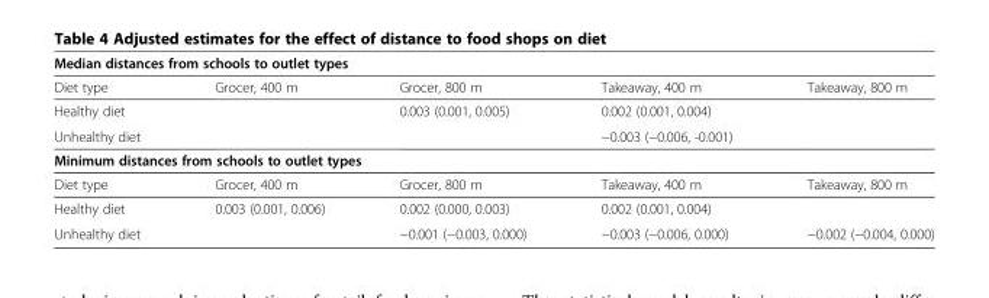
<table><tbody><tr><td colspan="5">Median distances from schools to outlet types</td></tr><tr><td>Diet type</td><td>Grocer, 400 m</td><td>Grocer, 800 m</td><td>Takeaway, 400 m</td><td>Takeaway, 800 m</td></tr><tr><td>Healthy diet</td><td></td><td>0.003 (0.001, 0.005)</td><td>0.002 (0.001, 0.004)</td><td></td></tr><tr><td>Unhealthy diet</td><td></td><td></td><td>−0.003 (−0.006, -0.001)</td><td></td></tr><tr><td colspan="5">Minimum distances from schools to outlet types</td></tr><tr><td>Diet type</td><td>Grocer, 400 m</td><td>Grocer, 800 m</td><td>Takeaway, 400 m</td><td>Takeaway, 800 m</td></tr><tr><td>Healthy diet</td><td>0.003 (0.001, 0.006)</td><td>0.002 (0.000, 0.003)</td><td>0.002 (0.001, 0.004)</td><td></td></tr><tr><td>Unhealthy diet</td><td></td><td>−0.001 (−0.003, 0.000)</td><td>−0.003 (−0.006, 0.000)</td><td>−0.002 (−0.004, 0.000)</td></tr></tbody></table>